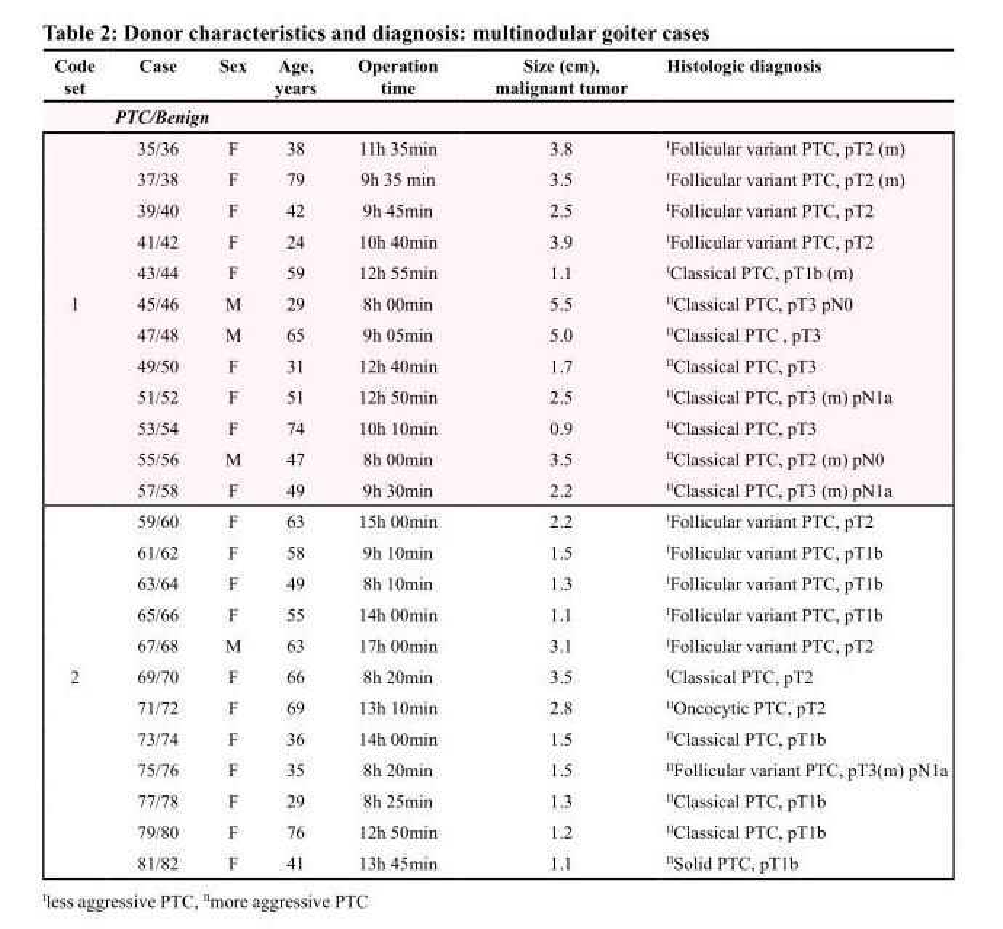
<table><thead><tr><td>Code set</td><td>Case</td><td>Sex</td><td>Age, years</td><td>Operation time</td><td>Size (cm), malignant tumor</td><td>Histologic diagnosis</td></tr></thead><tbody><tr><td colspan="7">PTC/Benign</td></tr><tr><td rowspan="12">1</td><td>35/36</td><td>F</td><td>38</td><td>11h 35min</td><td>3.8</td><td><sup>I</sup>Follicular variant PTC, pT2 (m)</td></tr><tr><td>37/38</td><td>F</td><td>79</td><td>9h 35 min</td><td>3.5</td><td><sup>I</sup>Follicular variant PTC, pT2 (m)</td></tr><tr><td>39/40</td><td>F</td><td>42</td><td>9h 45min</td><td>2.5</td><td><sup>I</sup>Follicular variant PTC, pT2</td></tr><tr><td>41/42</td><td>F</td><td>24</td><td>10h 40min</td><td>3.9</td><td><sup>I</sup>Follicular variant PTC, pT2</td></tr><tr><td>43/44</td><td>F</td><td>59</td><td>12h 55min</td><td>1.1</td><td><sup>I</sup>Classical PTC, pT1b (m)</td></tr><tr><td>45/46</td><td>M</td><td>29</td><td>8h 00min</td><td>5.5</td><td><sup>II</sup>Classical PTC, pT3 pN0</td></tr><tr><td>47/48</td><td>M</td><td>65</td><td>9h 05min</td><td>5.0</td><td><sup>II</sup>Classical PTC , pT3</td></tr><tr><td>49/50</td><td>F</td><td>31</td><td>12h 40min</td><td>1.7</td><td><sup>II</sup>Classical PTC, pT3</td></tr><tr><td>51/52</td><td>F</td><td>51</td><td>12h 50min</td><td>2.5</td><td><sup>II</sup>Classical PTC, pT3 (m) pN1a</td></tr><tr><td>53/54</td><td>F</td><td>74</td><td>10h 10min</td><td>0.9</td><td><sup>II</sup>Classical PTC, pT3</td></tr><tr><td>55/56</td><td>M</td><td>47</td><td>8h 00min</td><td>3.5</td><td><sup>II</sup>Classical PTC, pT2 (m) pN0</td></tr><tr><td>57/58</td><td>F</td><td>49</td><td>9h 30min</td><td>2.2</td><td><sup>II</sup>Classical PTC, pT3 (m) pN1a</td></tr><tr><td rowspan="12">2</td><td>59/60</td><td>F</td><td>63</td><td>15h 00min</td><td>2.2</td><td><sup>I</sup>Follicular variant PTC, pT2</td></tr><tr><td>61/62</td><td>F</td><td>58</td><td>9h 10min</td><td>1.5</td><td><sup>I</sup>Follicular variant PTC, pT1b</td></tr><tr><td>63/64</td><td>F</td><td>49</td><td>8h 10min</td><td>1.3</td><td><sup>I</sup>Follicular variant PTC, pT1b</td></tr><tr><td>65/66</td><td>F</td><td>55</td><td>14h 00min</td><td>1.1</td><td><sup>I</sup>Follicular variant PTC, pT1b</td></tr><tr><td>67/68</td><td>M</td><td>63</td><td>17h 00min</td><td>3.1</td><td><sup>I</sup>Follicular variant PTC, pT2</td></tr><tr><td>69/70</td><td>F</td><td>66</td><td>8h 20min</td><td>3.5</td><td><sup>I</sup>Classical PTC, pT2</td></tr><tr><td>71/72</td><td>F</td><td>69</td><td>13h 10min</td><td>2.8</td><td><sup>II</sup>Oncocytic PTC, pT2</td></tr><tr><td>73/74</td><td>F</td><td>36</td><td>14h 00min</td><td>1.5</td><td><sup>II</sup>Classical PTC, pT1b</td></tr><tr><td>75/76</td><td>F</td><td>35</td><td>8h 20min</td><td>1.5</td><td><sup>II</sup>Follicular variant PTC, pT3(m) pN1a</td></tr><tr><td>77/78</td><td>F</td><td>29</td><td>8h 25min</td><td>1.3</td><td><sup>II</sup>Classical PTC, pT1b</td></tr><tr><td>79/80</td><td>F</td><td>76</td><td>12h 50min</td><td>1.2</td><td><sup>II</sup>Classical PTC, pT1b</td></tr><tr><td>81/82</td><td>F</td><td>41</td><td>13h 45min</td><td>1.1</td><td><sup>II</sup>Solid PTC, pT1b</td></tr></tbody></table>